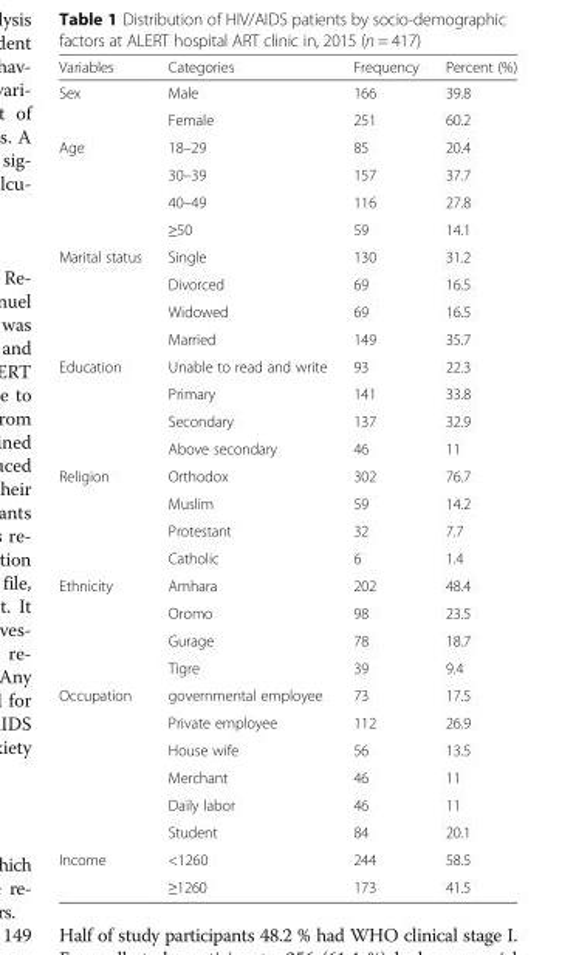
<table><thead><tr><td>Variables</td><td>Categories</td><td>Frequency</td><td>Percent (%)</td></tr></thead><tbody><tr><td rowspan="2">Sex</td><td>Male</td><td>166</td><td>39.8</td></tr><tr><td>Female</td><td>251</td><td>60.2</td></tr><tr><td rowspan="4">Age</td><td>18–29</td><td>85</td><td>20.4</td></tr><tr><td>30–39</td><td>157</td><td>37.7</td></tr><tr><td>40–49</td><td>116</td><td>27.8</td></tr><tr><td>≥50</td><td>59</td><td>14.1</td></tr><tr><td rowspan="4">Marital status</td><td>Single</td><td>130</td><td>31.2</td></tr><tr><td>Divorced</td><td>69</td><td>16.5</td></tr><tr><td>Widowed</td><td>69</td><td>16.5</td></tr><tr><td>Married</td><td>149</td><td>35.7</td></tr><tr><td rowspan="4">Education</td><td>Unable to read and write</td><td>93</td><td>22.3</td></tr><tr><td>Primary</td><td>141</td><td>33.8</td></tr><tr><td>Secondary</td><td>137</td><td>32.9</td></tr><tr><td>Above secondary</td><td>46</td><td>11</td></tr><tr><td rowspan="4">Religion</td><td>Orthodox</td><td>302</td><td>76.7</td></tr><tr><td>Muslim</td><td>59</td><td>14.2</td></tr><tr><td>Protestant</td><td>32</td><td>7.7</td></tr><tr><td>Catholic</td><td>6</td><td>1.4</td></tr><tr><td rowspan="4">Ethnicity</td><td>Amhara</td><td>202</td><td>48.4</td></tr><tr><td>Oromo</td><td>98</td><td>23.5</td></tr><tr><td>Gurage</td><td>78</td><td>18.7</td></tr><tr><td>Tigre</td><td>39</td><td>9.4</td></tr><tr><td rowspan="6">Occupation</td><td>governmental employee</td><td>73</td><td>17.5</td></tr><tr><td>Private employee</td><td>112</td><td>26.9</td></tr><tr><td>House wife</td><td>56</td><td>13.5</td></tr><tr><td>Merchant</td><td>46</td><td>11</td></tr><tr><td>Daily labor</td><td>46</td><td>11</td></tr><tr><td>Student</td><td>84</td><td>20.1</td></tr><tr><td rowspan="2">Income</td><td>&lt;1260</td><td>244</td><td>58.5</td></tr><tr><td>≥1260</td><td>173</td><td>41.5</td></tr></tbody></table>